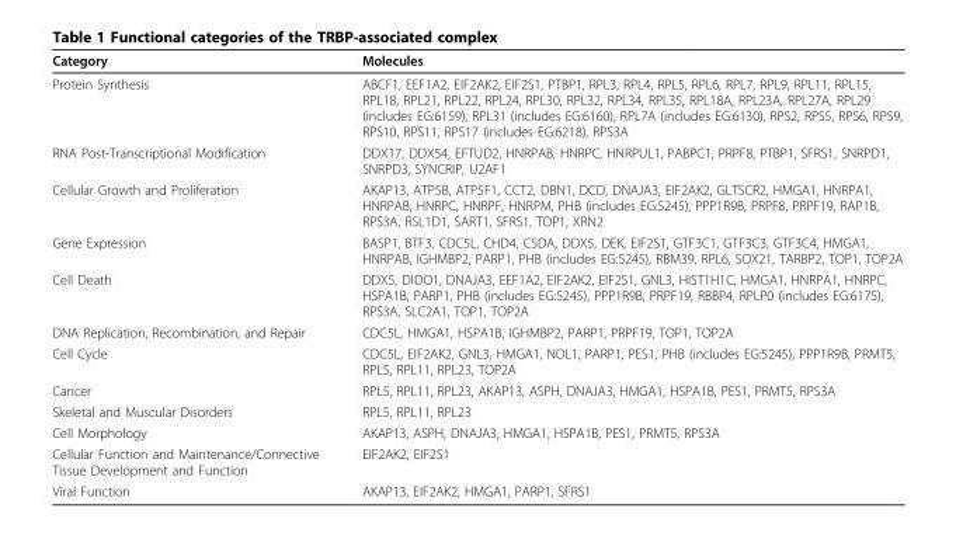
<table><thead><tr><td>Category</td><td>Molecules</td></tr></thead><tbody><tr><td>Protein Synthesis</td><td>ABCF1, EEF1A2, EIF2AK2, EIF2S1, PTBP1, RPL3, RPL4, RPL5, RPL6, RPL7, RPL9, RPL11, RPL15, RPL18, RPL21, RPL22, RPL24, RPL30, RPL32, RPL34, RPL35, RPL18A, RPL23A, RPL27A, RPL29 (includes EG:6159), RPL31 (includes EG:6160), RPL7A (includes EG:6130), RPS2, RPS5, RPS6, RPS9, RPS10, RPS11, RPS17 (includes EG:6218), RPS3A</td></tr><tr><td>RNA Post-Transcriptional Modification</td><td>DDX17, DDX54, EFTUD2, HNRPAB, HNRPC, HNRPUL1, PABPC1, PRPF8, PTBP1, SFRS1, SNRPD1, SNRPD3, SYNCRIP, U2AF1</td></tr><tr><td>Cellular Growth and Proliferation</td><td>AKAP13, ATP5B, ATP5F1, CCT2, DBN1, DCD, DNAJA3, EIF2AK2, GLTSCR2, HMGA1, HNRPA1, HNRPAB, HNRPC, HNRPF, HNRPM, PHB (includes EG:5245), PPP1R9B, PRPF8, PRPF19, RAP1B, RPS3A, RSL1D1, SART1, SFRS1, TOP1, XRN2</td></tr><tr><td>Gene Expression</td><td>BASP1, BTF3, CDC5L, CHD4, CSDA, DDX5, DEK, EIF2S1, GTF3C1, GTF3C3, GTF3C4, HMGA1, HNRPAB, IGHMBP2, PARP1, PHB (includes EG:5245), RBM39, RPL6, SOX21, TARBP2, TOP1, TOP2A</td></tr><tr><td>Cell Death</td><td>DDX5, DIDO1, DNAJA3, EEF1A2, EIF2AK2, EIF2S1, GNL3, HIST1H1C, HMGA1, HNRPA1, HNRPC, HSPA1B, PARP1, PHB (includes EG:5245), PPP1R9B, PRPF19, RBBP4, RPLP0 (includes EG:6175), RPS3A, SLC2A1, TOP1, TOP2A</td></tr><tr><td>DNA Replication, Recombination, and Repair</td><td>CDC5L, HMGA1, HSPA1B, IGHMBP2, PARP1, PRPF19, TOP1, TOP2A</td></tr><tr><td>Cell Cycle</td><td>CDC5L, EIF2AK2, GNL3, HMGA1, NOL1, PARP1, PES1, PHB (includes EG:5245), PPP1R9B, PRMT5, RPL5, RPL11, RPL23, TOP2A</td></tr><tr><td>Cancer</td><td>RPL5, RPL11, RPL23, AKAP13, ASPH, DNAJA3, HMGA1, HSPA1B, PES1, PRMT5, RPS3A</td></tr><tr><td>Skeletal and Muscular Disorders</td><td>RPL5, RPL11, RPL23</td></tr><tr><td>Cell Morphology</td><td>AKAP13, ASPH, DNAJA3, HMGA1, HSPA1B, PES1, PRMT5, RPS3A</td></tr><tr><td>Cellular Function and Maintenance/Connective Tissue Development and Function</td><td>EIF2AK2, EIF2S1</td></tr><tr><td>Viral Function</td><td>AKAP13, EIF2AK2, HMGA1, PARP1, SFRS1</td></tr></tbody></table>